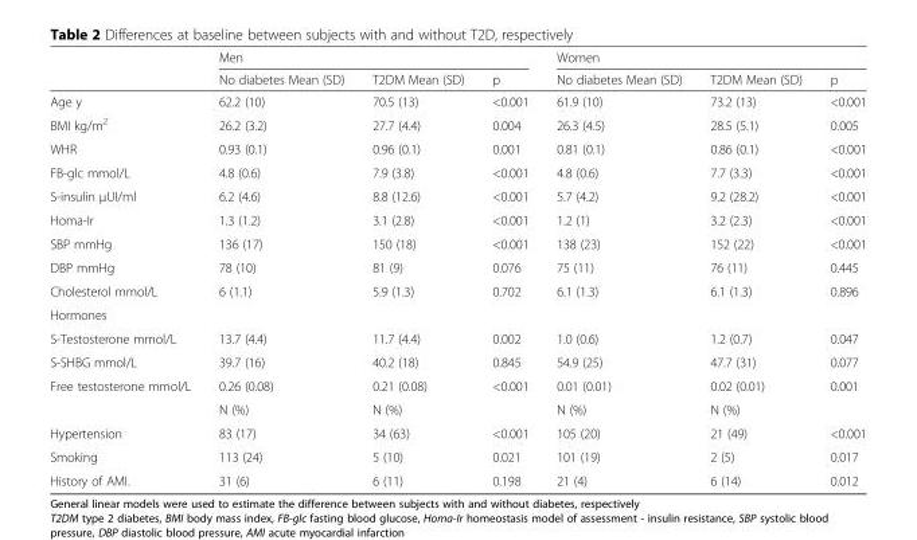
<table><thead><tr><td rowspan="2"></td><td colspan="3">Men</td><td colspan="3">Women</td></tr><tr><td>No diabetes Mean (SD)</td><td>T2DM Mean (SD)</td><td>p</td><td>No diabetes Mean (SD)</td><td>T2DM Mean (SD)</td><td>p</td></tr></thead><tbody><tr><td>Age y</td><td>62.2 (10)</td><td>70.5 (13)</td><td>&lt;0.001</td><td>61.9 (10)</td><td>73.2 (13)</td><td>&lt;0.001</td></tr><tr><td>BMI kg/m<sup>2</sup></td><td>26.2 (3.2)</td><td>27.7 (4.4)</td><td>0.004</td><td>26.3 (4.5)</td><td>28.5 (5.1)</td><td>0.005</td></tr><tr><td>WHR</td><td>0.93 (0.1)</td><td>0.96 (0.1)</td><td>0.001</td><td>0.81 (0.1)</td><td>0.86 (0.1)</td><td>&lt;0.001</td></tr><tr><td>FB-glc mmol/L</td><td>4.8 (0.6)</td><td>7.9 (3.8)</td><td>&lt;0.001</td><td>4.8 (0.6)</td><td>7.7 (3.3)</td><td>&lt;0.001</td></tr><tr><td>S-insulin μUI/ml</td><td>6.2 (4.6)</td><td>8.8 (12.6)</td><td>&lt;0.001</td><td>5.7 (4.2)</td><td>9.2 (28.2)</td><td>&lt;0.001</td></tr><tr><td>Homa-Ir</td><td>1.3 (1.2)</td><td>3.1 (2.8)</td><td>&lt;0.001</td><td>1.2 (1)</td><td>3.2 (2.3)</td><td>&lt;0.001</td></tr><tr><td>SBP mmHg</td><td>136 (17)</td><td>150 (18)</td><td>&lt;0.001</td><td>138 (23)</td><td>152 (22)</td><td>&lt;0.001</td></tr><tr><td>DBP mmHg</td><td>78 (10)</td><td>81 (9)</td><td>0.076</td><td>75 (11)</td><td>76 (11)</td><td>0.445</td></tr><tr><td>Cholesterol mmol/L</td><td>6 (1.1)</td><td>5.9 (1.3)</td><td>0.702</td><td>6.1 (1.3)</td><td>6.1 (1.3)</td><td>0.896</td></tr><tr><td colspan="7">Hormones</td></tr><tr><td>S-Testosterone mmol/L</td><td>13.7 (4.4)</td><td>11.7 (4.4)</td><td>0.002</td><td>1.0 (0.6)</td><td>1.2 (0.7)</td><td>0.047</td></tr><tr><td>S-SHBG mmol/L</td><td>39.7 (16)</td><td>40.2 (18)</td><td>0.845</td><td>54.9 (25)</td><td>47.7 (31)</td><td>0.077</td></tr><tr><td rowspan="2">Free testosterone mmol/L</td><td>0.26 (0.08)</td><td>0.21 (0.08)</td><td>&lt;0.001</td><td>0.01 (0.01)</td><td>0.02 (0.01)</td><td>0.001</td></tr><tr><td>N (%)</td><td>N (%)</td><td></td><td>N (%)</td><td>N (%)</td><td></td></tr><tr><td>Hypertension</td><td>83 (17)</td><td>34 (63)</td><td>&lt;0.001</td><td>105 (20)</td><td>21 (49)</td><td>&lt;0.001</td></tr><tr><td>Smoking</td><td>113 (24)</td><td>5 (10)</td><td>0.021</td><td>101 (19)</td><td>2 (5)</td><td>0.017</td></tr><tr><td>History of AMI.</td><td>31 (6)</td><td>6 (11)</td><td>0.198</td><td>21 (4)</td><td>6 (14)</td><td>0.012</td></tr></tbody></table>